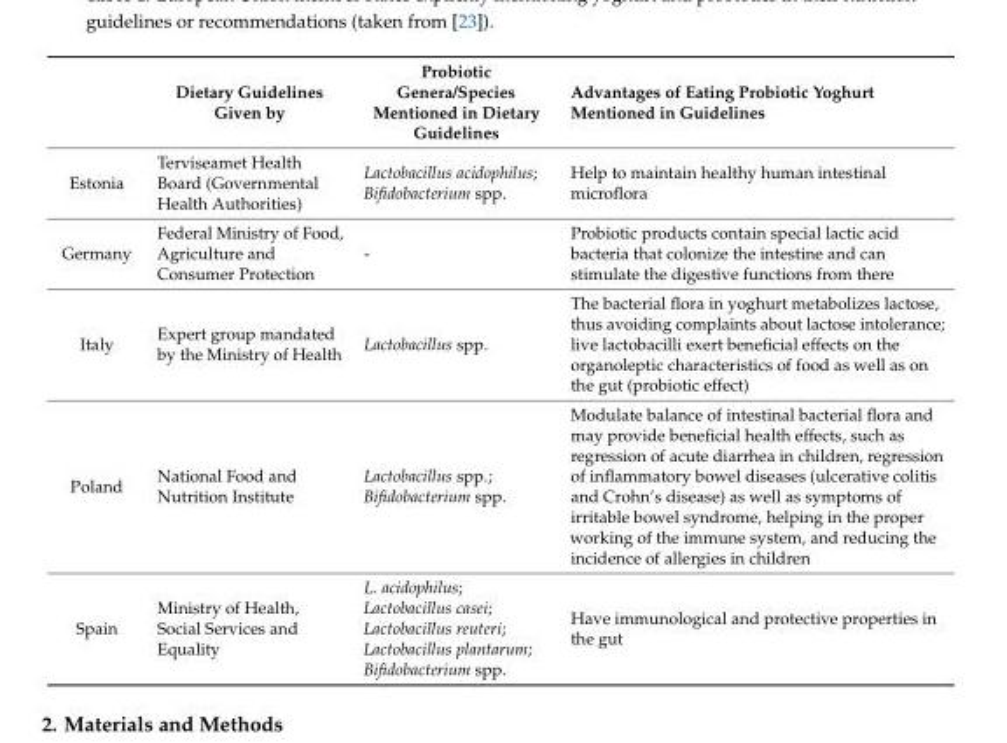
<table><thead><tr><td></td><td>Dietary Guidelines Given by</td><td>Probiotic Genera/Species Mentioned in Dietary Guidelines</td><td>Advantages of Eating Probiotic Yoghurt Mentioned in Guidelines</td></tr></thead><tbody><tr><td>Estonia</td><td>Terviseamet Health Board (Governmental Health Authorities)</td><td>Lactobacillus acidophilus; Bifidobacterium spp.</td><td>Help to maintain healthy human intestinal microflora</td></tr><tr><td>Germany</td><td>Federal Ministry of Food, Agriculture and Consumer Protection</td><td>-</td><td>Probiotic products contain special lactic acid bacteria that colonize the intestine and can stimulate the digestive functions from there</td></tr><tr><td>Italy</td><td>Expert group mandated by the Ministry of Health</td><td>Lactobacillus spp.</td><td>The bacterial flora in yoghurt metabolizes lactose, thus avoiding complaints about lactose intolerance; live lactobacilli exert beneficial effects on the organoleptic characteristics of food as well as on the gut (probiotic effect)</td></tr><tr><td>Poland</td><td>National Food and Nutrition Institute</td><td>Lactobacillus spp.; Bifidobacterium spp.</td><td>Modulate balance of intestinal bacterial flora and may provide beneficial health effects, such as regression of acute diarrhea in children, regression of inflammatory bowel diseases (ulcerative colitis and Crohn’s disease) as well as symptoms of irritable bowel syndrome, helping in the proper working of the immune system, and reducing the incidence of allergies in children</td></tr><tr><td>Spain</td><td>Ministry of Health, Social Services and Equality</td><td>L. acidophilus; Lactobacillus casei; Lactobacillus reuteri; Lactobacillus plantarum; Bifidobacterium spp.</td><td>Have immunological and protective properties in the gut</td></tr></tbody></table>